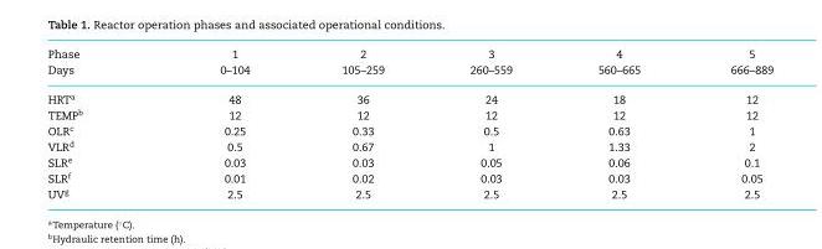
<table><thead><tr><td rowspan="2">Phase Days</td><td rowspan="2">1 0–104</td><td rowspan="2">2 105–259</td><td rowspan="2">3 260–559</td><td rowspan="2">4 560–665</td><td rowspan="2">5 666–889</td></tr><tr></tr></thead><tbody><tr><td>HRT<sup>a</sup></td><td>48</td><td>36</td><td>24</td><td>18</td><td>12</td></tr><tr><td>TEMP<sup>b</sup></td><td>12</td><td>12</td><td>12</td><td>12</td><td>12</td></tr><tr><td>OLR<sup>c</sup></td><td>0.25</td><td>0.33</td><td>0.5</td><td>0.63</td><td>1</td></tr><tr><td>VLR<sup>d</sup></td><td>0.5</td><td>0.67</td><td>1</td><td>1.33</td><td>2</td></tr><tr><td>SLR<sup>e</sup></td><td>0.03</td><td>0.03</td><td>0.05</td><td>0.06</td><td>0.1</td></tr><tr><td>SLR<sup>f</sup></td><td>0.01</td><td>0.02</td><td>0.03</td><td>0.03</td><td>0.05</td></tr><tr><td>UV<sup>g</sup></td><td>2.5</td><td>2.5</td><td>2.5</td><td>2.5</td><td>2.5</td></tr></tbody></table>